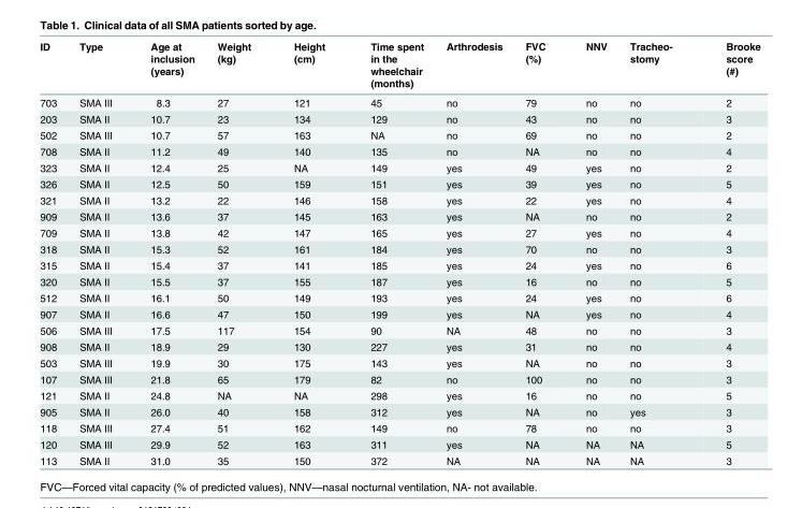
<table><thead><tr><td>ID</td><td>Type</td><td>Age at inclusion (years)</td><td>Weight (kg)</td><td>Height (cm)</td><td>Time spent in the wheelchair (months)</td><td>Arthrodesis</td><td>FVC (%)</td><td>NNV</td><td>Tracheo- stomy</td><td>Brooke score (#)</td></tr></thead><tbody><tr><td>703</td><td>SMA III</td><td>8.3</td><td>27</td><td>121</td><td>45</td><td>no</td><td>79</td><td>no</td><td>no</td><td>2</td></tr><tr><td>203</td><td>SMA II</td><td>10.7</td><td>23</td><td>134</td><td>129</td><td>no</td><td>43</td><td>no</td><td>no</td><td>3</td></tr><tr><td>502</td><td>SMA III</td><td>10.7</td><td>57</td><td>163</td><td>NA</td><td>no</td><td>69</td><td>no</td><td>no</td><td>2</td></tr><tr><td>708</td><td>SMA II</td><td>11.2</td><td>49</td><td>140</td><td>135</td><td>no</td><td>NA</td><td>no</td><td>no</td><td>4</td></tr><tr><td>323</td><td>SMA II</td><td>12.4</td><td>25</td><td>NA</td><td>149</td><td>yes</td><td>49</td><td>yes</td><td>no</td><td>2</td></tr><tr><td>326</td><td>SMA II</td><td>12.5</td><td>50</td><td>159</td><td>151</td><td>yes</td><td>39</td><td>yes</td><td>no</td><td>5</td></tr><tr><td>321</td><td>SMA II</td><td>13.2</td><td>22</td><td>146</td><td>158</td><td>yes</td><td>22</td><td>yes</td><td>no</td><td>4</td></tr><tr><td>909</td><td>SMA II</td><td>13.6</td><td>37</td><td>145</td><td>163</td><td>yes</td><td>NA</td><td>no</td><td>no</td><td>2</td></tr><tr><td>709</td><td>SMA II</td><td>13.8</td><td>42</td><td>147</td><td>165</td><td>yes</td><td>27</td><td>yes</td><td>no</td><td>4</td></tr><tr><td>318</td><td>SMA II</td><td>15.3</td><td>52</td><td>161</td><td>184</td><td>yes</td><td>70</td><td>no</td><td>no</td><td>3</td></tr><tr><td>315</td><td>SMA II</td><td>15.4</td><td>37</td><td>141</td><td>185</td><td>yes</td><td>24</td><td>yes</td><td>no</td><td>6</td></tr><tr><td>320</td><td>SMA II</td><td>15.5</td><td>37</td><td>155</td><td>187</td><td>yes</td><td>16</td><td>no</td><td>no</td><td>5</td></tr><tr><td>512</td><td>SMA II</td><td>16.1</td><td>50</td><td>149</td><td>193</td><td>yes</td><td>24</td><td>yes</td><td>no</td><td>6</td></tr><tr><td>907</td><td>SMA II</td><td>16.6</td><td>47</td><td>150</td><td>199</td><td>yes</td><td>NA</td><td>yes</td><td>no</td><td>4</td></tr><tr><td>506</td><td>SMA III</td><td>17.5</td><td>117</td><td>154</td><td>90</td><td>NA</td><td>48</td><td>no</td><td>no</td><td>3</td></tr><tr><td>908</td><td>SMA II</td><td>18.9</td><td>29</td><td>130</td><td>227</td><td>yes</td><td>31</td><td>no</td><td>no</td><td>4</td></tr><tr><td>503</td><td>SMA III</td><td>19.9</td><td>30</td><td>175</td><td>143</td><td>yes</td><td>NA</td><td>no</td><td>no</td><td>3</td></tr><tr><td>107</td><td>SMA III</td><td>21.8</td><td>65</td><td>179</td><td>82</td><td>no</td><td>100</td><td>no</td><td>no</td><td>3</td></tr><tr><td>121</td><td>SMA II</td><td>24.8</td><td>NA</td><td>NA</td><td>298</td><td>yes</td><td>16</td><td>no</td><td>no</td><td>5</td></tr><tr><td>905</td><td>SMA II</td><td>26.0</td><td>40</td><td>158</td><td>312</td><td>yes</td><td>NA</td><td>no</td><td>yes</td><td>3</td></tr><tr><td>118</td><td>SMA III</td><td>27.4</td><td>51</td><td>162</td><td>149</td><td>no</td><td>78</td><td>no</td><td>no</td><td>3</td></tr><tr><td>120</td><td>SMA III</td><td>29.9</td><td>52</td><td>163</td><td>311</td><td>yes</td><td>NA</td><td>NA</td><td>NA</td><td>5</td></tr><tr><td>113</td><td>SMA II</td><td>31.0</td><td>35</td><td>150</td><td>372</td><td>NA</td><td>NA</td><td>NA</td><td>NA</td><td>3</td></tr></tbody></table>